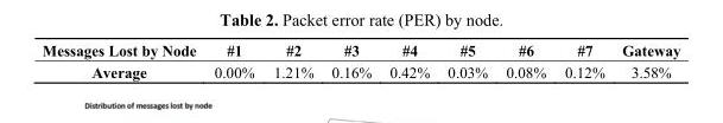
<table><thead><tr><td>Messages Lost by Node</td><td>#1</td><td>#2</td><td>#3</td><td>#4</td><td>#5</td><td>#6</td><td>#7</td><td>Gateway</td></tr></thead><tbody><tr><td>Average</td><td>0.00%</td><td>1.21%</td><td>0.16%</td><td>0.42%</td><td>0.03%</td><td>0.08%</td><td>0.12%</td><td>3.58%</td></tr></tbody></table>